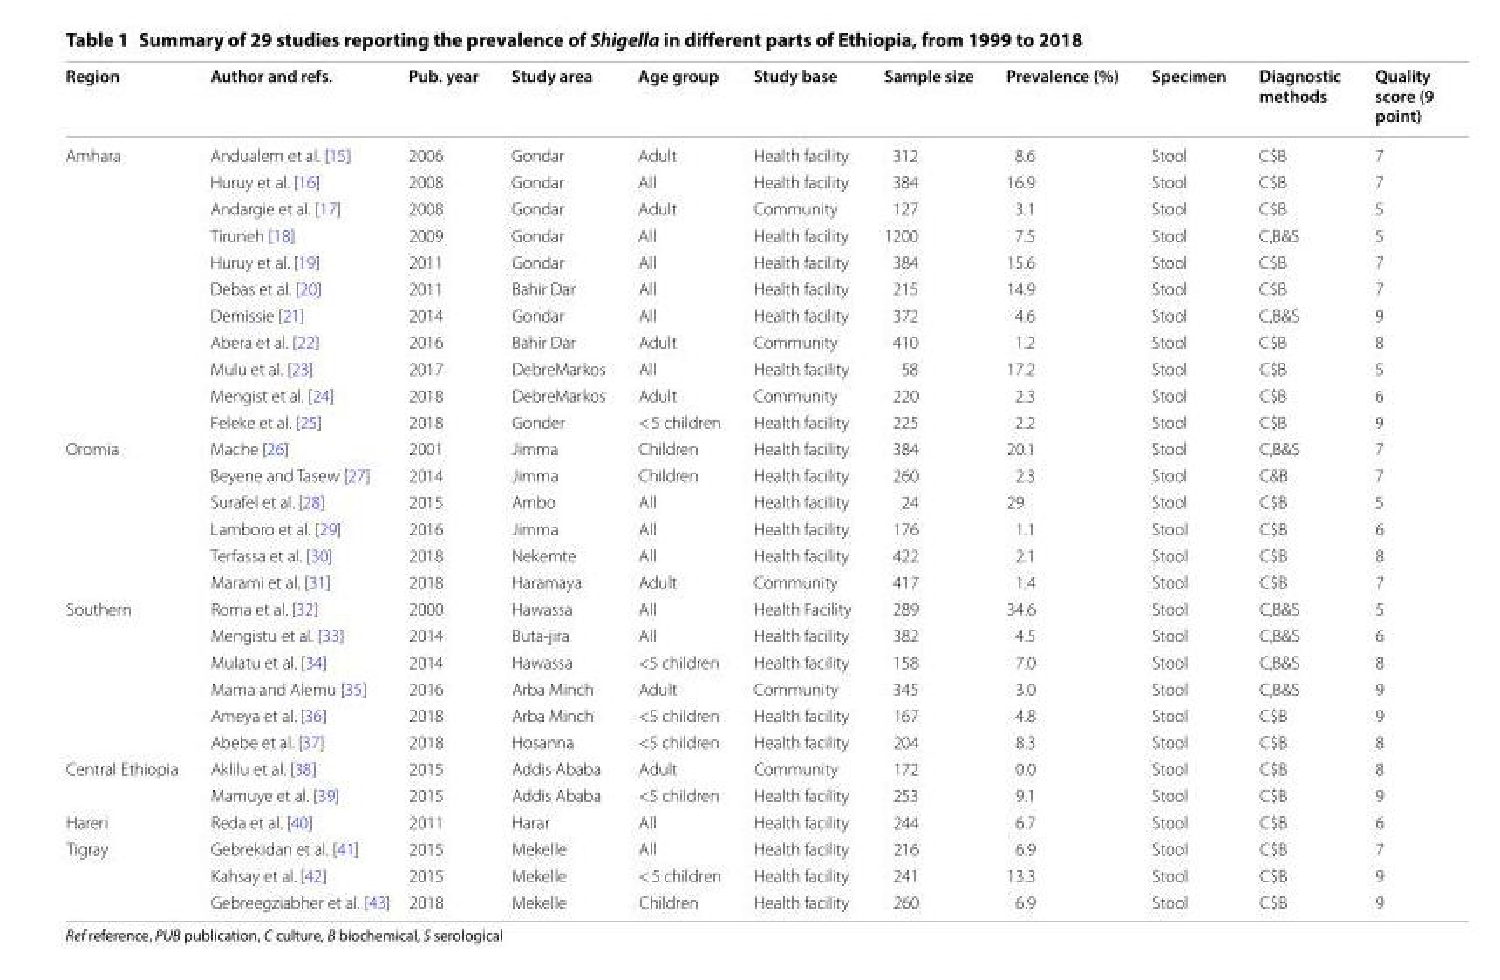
<table><thead><tr><td>Region</td><td>Author and refs.</td><td>Pub. year</td><td>Study area</td><td>Age group</td><td>Study base</td><td>Sample size</td><td>Prevalence (%)</td><td>Specimen</td><td>Diagnostic methods</td><td>Quality score (9 point)</td></tr></thead><tbody><tr><td rowspan="11">Amhara</td><td>Andualem et al. [15]</td><td>2006</td><td>Gondar</td><td>Adult</td><td>Health facility</td><td>312</td><td>8.6</td><td>Stool</td><td>C$B</td><td>7</td></tr><tr><td>Huruy et al. [16]</td><td>2008</td><td>Gondar</td><td>All</td><td>Health facility</td><td>384</td><td>16.9</td><td>Stool</td><td>C$B</td><td>7</td></tr><tr><td>Andargie et al. [17]</td><td>2008</td><td>Gondar</td><td>Adult</td><td>Community</td><td>127</td><td>3.1</td><td>Stool</td><td>C$B</td><td>5</td></tr><tr><td>Tiruneh [18]</td><td>2009</td><td>Gondar</td><td>All</td><td>Health facility</td><td>1200</td><td>7.5</td><td>Stool</td><td>C,B&amp;S</td><td>5</td></tr><tr><td>Huruy et al. [19]</td><td>2011</td><td>Gondar</td><td>All</td><td>Health facility</td><td>384</td><td>15.6</td><td>Stool</td><td>C$B</td><td>7</td></tr><tr><td>Debas et al. [20]</td><td>2011</td><td>Bahir Dar</td><td>All</td><td>Health facility</td><td>215</td><td>14.9</td><td>Stool</td><td>C$B</td><td>7</td></tr><tr><td>Demissie [21]</td><td>2014</td><td>Gondar</td><td>All</td><td>Health facility</td><td>372</td><td>4.6</td><td>Stool</td><td>C,B&amp;S</td><td>9</td></tr><tr><td>Abera et al. [22]</td><td>2016</td><td>Bahir Dar</td><td>Adult</td><td>Community</td><td>410</td><td>1.2</td><td>Stool</td><td>C$B</td><td>8</td></tr><tr><td>Mulu et al. [23]</td><td>2017</td><td>DebreMarkos</td><td>All</td><td>Health facility</td><td>58</td><td>17.2</td><td>Stool</td><td>C$B</td><td>5</td></tr><tr><td>Mengist et al. [24]</td><td>2018</td><td>DebreMarkos</td><td>Adult</td><td>Community</td><td>220</td><td>2.3</td><td>Stool</td><td>C$B</td><td>6</td></tr><tr><td>Feleke et al. [25]</td><td>2018</td><td>Gonder</td><td>&lt; 5 children</td><td>Health facility</td><td>225</td><td>2.2</td><td>Stool</td><td>C$B</td><td>9</td></tr><tr><td rowspan="6">Oromia</td><td>Mache [26]</td><td>2001</td><td>Jimma</td><td>Children</td><td>Health facility</td><td>384</td><td>20.1</td><td>Stool</td><td>C,B&amp;S</td><td>7</td></tr><tr><td>Beyene and Tasew [27]</td><td>2014</td><td>Jimma</td><td>Children</td><td>Health facility</td><td>260</td><td>2.3</td><td>Stool</td><td>C&amp;B</td><td>7</td></tr><tr><td>Surafel et al. [28]</td><td>2015</td><td>Ambo</td><td>All</td><td>Health facility</td><td>24</td><td>29</td><td>Stool</td><td>C$B</td><td>5</td></tr><tr><td>Lamboro et al. [29]</td><td>2016</td><td>Jimma</td><td>All</td><td>Health facility</td><td>176</td><td>1.1</td><td>Stool</td><td>C$B</td><td>6</td></tr><tr><td>Terfassa et al. [30]</td><td>2018</td><td>Nekemte</td><td>All</td><td>Health facility</td><td>422</td><td>2.1</td><td>Stool</td><td>C$B</td><td>8</td></tr><tr><td>Marami et al. [31]</td><td>2018</td><td>Haramaya</td><td>Adult</td><td>Community</td><td>417</td><td>1.4</td><td>Stool</td><td>C$B</td><td>7</td></tr><tr><td rowspan="6">Southern</td><td>Roma et al. [32]</td><td>2000</td><td>Hawassa</td><td>All</td><td>Health Facility</td><td>289</td><td>34.6</td><td>Stool</td><td>C,B&amp;S</td><td>5</td></tr><tr><td>Mengistu et al. [33]</td><td>2014</td><td>Buta-jira</td><td>All</td><td>Health facility</td><td>382</td><td>4.5</td><td>Stool</td><td>C,B&amp;S</td><td>6</td></tr><tr><td>Mulatu et al. [34]</td><td>2014</td><td>Hawassa</td><td>&lt;5 children</td><td>Health facility</td><td>158</td><td>7.0</td><td>Stool</td><td>C,B&amp;S</td><td>8</td></tr><tr><td>Mama and Alemu [35]</td><td>2016</td><td>Arba Minch</td><td>Adult</td><td>Community</td><td>345</td><td>3.0</td><td>Stool</td><td>C,B&amp;S</td><td>9</td></tr><tr><td>Ameya et al. [36]</td><td>2018</td><td>Arba Minch</td><td>&lt;5 children</td><td>Health facility</td><td>167</td><td>4.8</td><td>Stool</td><td>C$B</td><td>9</td></tr><tr><td>Abebe et al. [37]</td><td>2018</td><td>Hosanna</td><td>&lt;5 children</td><td>Health facility</td><td>204</td><td>8.3</td><td>Stool</td><td>C$B</td><td>8</td></tr><tr><td rowspan="2">Central Ethiopia</td><td>Aklilu et al. [38]</td><td>2015</td><td>Addis Ababa</td><td>Adult</td><td>Community</td><td>172</td><td>0.0</td><td>Stool</td><td>C$B</td><td>8</td></tr><tr><td>Mamuye et al. [39]</td><td>2015</td><td>Addis Ababa</td><td>&lt;5 children</td><td>Health facility</td><td>253</td><td>9.1</td><td>Stool</td><td>C$B</td><td>9</td></tr><tr><td>Hareri</td><td>Reda et al. [40]</td><td>2011</td><td>Harar</td><td>All</td><td>Health facility</td><td>244</td><td>6.7</td><td>Stool</td><td>C$B</td><td>6</td></tr><tr><td rowspan="3">Tigray</td><td>Gebrekidan et al. [41]</td><td>2015</td><td>Mekelle</td><td>All</td><td>Health facility</td><td>216</td><td>6.9</td><td>Stool</td><td>C$B</td><td>7</td></tr><tr><td>Kahsay et al. [42]</td><td>2015</td><td>Mekelle</td><td>&lt; 5 children</td><td>Health facility</td><td>241</td><td>13.3</td><td>Stool</td><td>C$B</td><td>9</td></tr><tr><td>Gebreegziabher et al. [43]</td><td>2018</td><td>Mekelle</td><td>Children</td><td>Health facility</td><td>260</td><td>6.9</td><td>Stool</td><td>C$B</td><td>9</td></tr></tbody></table>